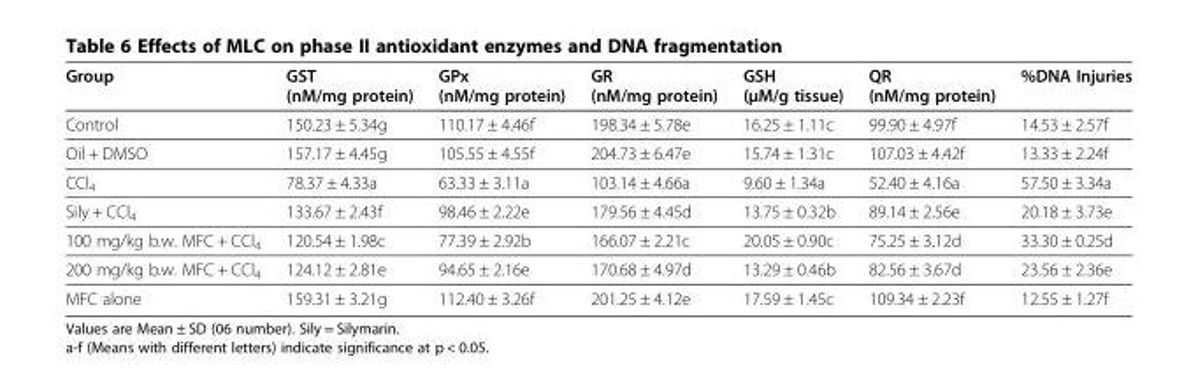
<table><thead><tr><td>Group</td><td>GST (nM/mg protein)</td><td>GPx (nM/mg protein)</td><td>GR (nM/mg protein)</td><td>GSH (μM/g tissue)</td><td>QR (nM/mg protein)</td><td>%DNA Injuries</td></tr></thead><tbody><tr><td>Control</td><td>150.23 ± 5.34g</td><td>110.17 ± 4.46f</td><td>198.34 ± 5.78e</td><td>16.25 ± 1.11c</td><td>99.90 ± 4.97f</td><td>14.53 ± 2.57f</td></tr><tr><td>Oil + DMSO</td><td>157.17 ± 4.45g</td><td>105.55 ± 4.55f</td><td>204.73 ± 6.47e</td><td>15.74 ± 1.31c</td><td>107.03 ± 4.42f</td><td>13.33 ± 2.24f</td></tr><tr><td>CCl<sub>4</sub></td><td>78.37 ± 4.33a</td><td>63.33 ± 3.11a</td><td>103.14 ± 4.66a</td><td>9.60 ± 1.34a</td><td>52.40 ± 4.16a</td><td>57.50 ± 3.34a</td></tr><tr><td>Sily + CCl<sub>4</sub></td><td>133.67 ± 2.43f</td><td>98.46 ± 2.22e</td><td>179.56 ± 4.45d</td><td>13.75 ± 0.32b</td><td>89.14 ± 2.56e</td><td>20.18 ± 3.73e</td></tr><tr><td>100 mg/kg b.w. MFC + CCl<sub>4</sub></td><td>120.54 ± 1.98c</td><td>77.39 ± 2.92b</td><td>166.07 ± 2.21c</td><td>20.05 ± 0.90c</td><td>75.25 ± 3.12d</td><td>33.30 ± 0.25d</td></tr><tr><td>200 mg/kg b.w. MFC + CCl<sub>4</sub></td><td>124.12 ± 2.81e</td><td>94.65 ± 2.16e</td><td>170.68 ± 4.97d</td><td>13.29 ± 0.46b</td><td>82.56 ± 3.67d</td><td>23.56 ± 2.36e</td></tr><tr><td>MFC alone</td><td>159.31 ± 3.21g</td><td>112.40 ± 3.26f</td><td>201.25 ± 4.12e</td><td>17.59 ± 1.45c</td><td>109.34 ± 2.23f</td><td>12.55 ± 1.27f</td></tr></tbody></table>